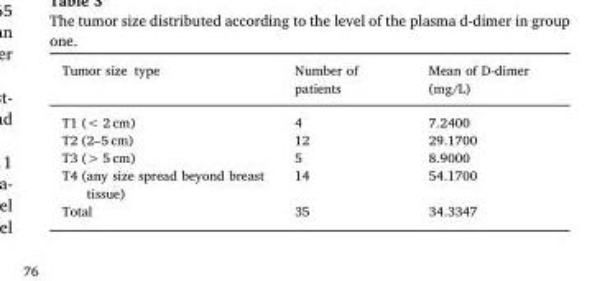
<table><thead><tr><td>Tumor size type</td><td>Number of patients</td><td>Mean of D-dimer (mg/L)</td></tr></thead><tbody><tr><td>T1 (&lt; 2 cm)</td><td>4</td><td>7.2400</td></tr><tr><td>T2 (2–5 cm)</td><td>12</td><td>29.1700</td></tr><tr><td>T3 (&gt; 5 cm)</td><td>5</td><td>8.9000</td></tr><tr><td>T4 (any size spread beyond breast tissue)</td><td>14</td><td>54.1700</td></tr><tr><td>Total</td><td>35</td><td>34.3347</td></tr></tbody></table>